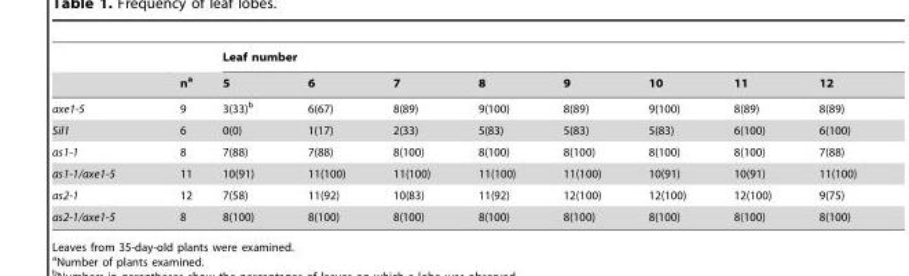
<table><thead><tr><td rowspan="2"></td><td rowspan="2">n<sup>a</sup></td><td colspan="8">Leaf number</td></tr><tr><td>5</td><td>6</td><td>7</td><td>8</td><td>9</td><td>10</td><td>11</td><td>12</td></tr></thead><tbody><tr><td>axe1-5</td><td>9</td><td>3(33)<sup>b</sup></td><td>6(67)</td><td>8(89)</td><td>9(100)</td><td>8(89)</td><td>9(100)</td><td>8(89)</td><td>8(89)</td></tr><tr><td>Sil1</td><td>6</td><td>0(0)</td><td>1(17)</td><td>2(33)</td><td>5(83)</td><td>5(83)</td><td>5(83)</td><td>6(100)</td><td>6(100)</td></tr><tr><td>as1-1</td><td>8</td><td>7(88)</td><td>7(88)</td><td>8(100)</td><td>8(100)</td><td>8(100)</td><td>8(100)</td><td>8(100)</td><td>7(88)</td></tr><tr><td>as1-1/axe1-5</td><td>11</td><td>10(91)</td><td>11(100)</td><td>11(100)</td><td>11(100)</td><td>11(100)</td><td>10(91)</td><td>10(91)</td><td>11(100)</td></tr><tr><td>as2-1</td><td>12</td><td>7(58)</td><td>11(92)</td><td>10(83)</td><td>11(92)</td><td>12(100)</td><td>12(100)</td><td>12(100)</td><td>9(75)</td></tr><tr><td>as2-1/axe1-5</td><td>8</td><td>8(100)</td><td>8(100)</td><td>8(100)</td><td>8(100)</td><td>8(100)</td><td>8(100)</td><td>8(100)</td><td>8(100)</td></tr></tbody></table>